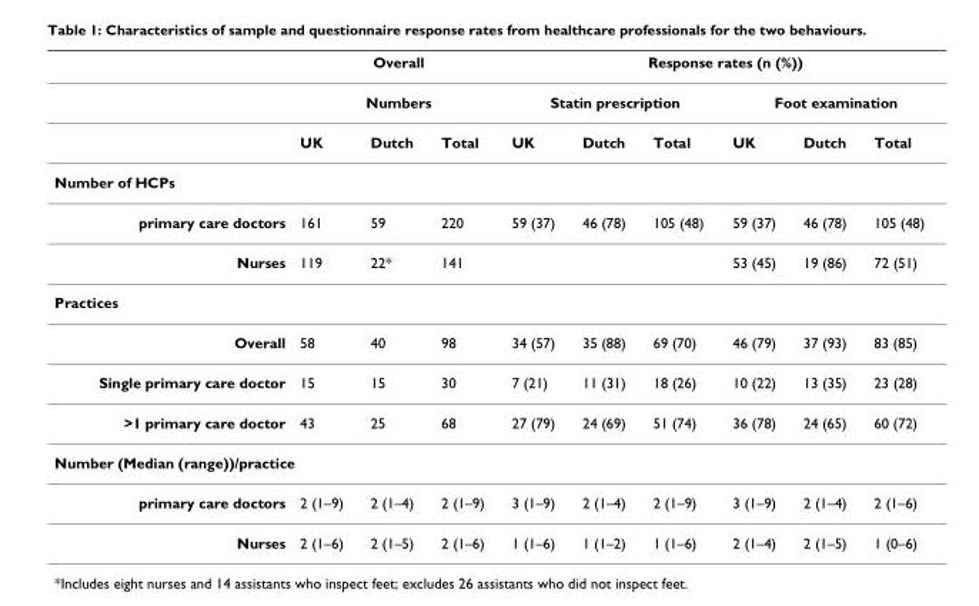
<table><thead><tr><td rowspan="3"></td><td rowspan="2" colspan="3">Overall Numbers</td><td colspan="6">Response rates (n (%))</td></tr><tr><td colspan="3">Statin prescription</td><td colspan="3">Foot examination</td></tr><tr><td>UK</td><td>Dutch</td><td>Total</td><td>UK</td><td>Dutch</td><td>Total</td><td>UK</td><td>Dutch</td><td>Total</td></tr></thead><tbody><tr><td colspan="10">Number of HCPs</td></tr><tr><td>primary care doctors</td><td>161</td><td>59</td><td>220</td><td>59 (37)</td><td>46 (78)</td><td>105 (48)</td><td>59 (37)</td><td>46 (78)</td><td>105 (48)</td></tr><tr><td>Nurses</td><td>119</td><td>22*</td><td>141</td><td></td><td></td><td></td><td>53 (45)</td><td>19 (86)</td><td>72 (51)</td></tr><tr><td colspan="10">Practices</td></tr><tr><td>Overall</td><td>58</td><td>40</td><td>98</td><td>34 (57)</td><td>35 (88)</td><td>69 (70)</td><td>46 (79)</td><td>37 (93)</td><td>83 (85)</td></tr><tr><td>Single primary care doctor</td><td>15</td><td>15</td><td>30</td><td>7 (21)</td><td>11 (31)</td><td>18 (26)</td><td>10 (22)</td><td>13 (35)</td><td>23 (28)</td></tr><tr><td>&gt;1 primary care doctor</td><td>43</td><td>25</td><td>68</td><td>27 (79)</td><td>24 (69)</td><td>51 (74)</td><td>36 (78)</td><td>24 (65)</td><td>60 (72)</td></tr><tr><td colspan="10">Number (Median (range))/practice</td></tr><tr><td>primary care doctors</td><td>2 (1–9)</td><td>2 (1–4)</td><td>2 (1–9)</td><td>3 (1–9)</td><td>2 (1–4)</td><td>2 (1–9)</td><td>3 (1–9)</td><td>2 (1–4)</td><td>2 (1–6)</td></tr><tr><td>Nurses</td><td>2 (1–6)</td><td>2 (1–5)</td><td>2 (1–6)</td><td>1 (1–6)</td><td>1 (1–2)</td><td>1 (1–6)</td><td>2 (1–4)</td><td>2 (1–5)</td><td>1 (0–6)</td></tr></tbody></table>